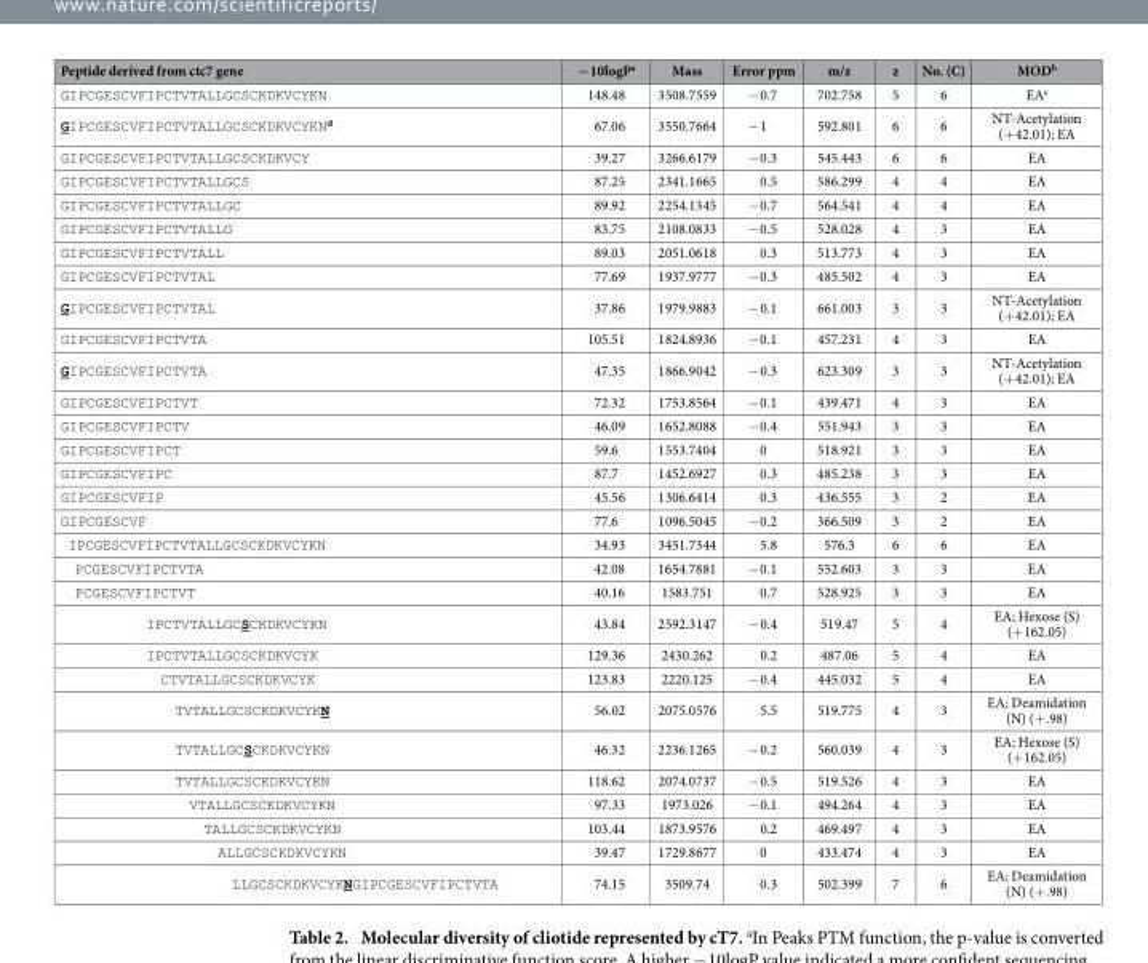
<table><thead><tr><td>Peptide derived from ctc7 gene</td><td>−10logP<sup>a</sup></td><td>Mass</td><td>Error ppm</td><td>m/z</td><td>z</td><td>No. (C)</td><td>MOD<sup>b</sup></td></tr></thead><tbody><tr><td>GIPCGESCVFIPCTVTALLGCSCKDKVCYKN</td><td>148.48</td><td>3508.7559</td><td>− 0.7</td><td>702.758</td><td>5</td><td>6</td><td>EA<sup>c</sup></td></tr><tr><td>GIPCGESCVFIPCTVTALLGCSCKDKVCYKN<sup>d</sup></td><td>67.06</td><td>3550.7664</td><td>− 1</td><td>592.801</td><td>6</td><td>6</td><td>NT-Acetylation (+ 42.01); EA</td></tr><tr><td>GIPCGESCVFIPCTVTALLGCSCKDKVCY</td><td>39.27</td><td>3266.6179</td><td>− 0.3</td><td>545.443</td><td>6</td><td>6</td><td>EA</td></tr><tr><td>GIPCGESCVFIPCTVTALLGCS</td><td>87.25</td><td>2341.1665</td><td>0.5</td><td>586.299</td><td>4</td><td>4</td><td>EA</td></tr><tr><td>GIPCGESCVFIPCTVTALLGC</td><td>89.92</td><td>2254.1345</td><td>− 0.7</td><td>564.541</td><td>4</td><td>4</td><td>EA</td></tr><tr><td>GIPCGESCVFIPCTVTALLG</td><td>83.75</td><td>2108.0833</td><td>− 0.5</td><td>528.028</td><td>4</td><td>3</td><td>EA</td></tr><tr><td>GIPCGESCVFIPCTVTALL</td><td>89.03</td><td>2051.0618</td><td>0.3</td><td>513.773</td><td>4</td><td>3</td><td>EA</td></tr><tr><td>GIPCGESCVFIPCTVTAL</td><td>77.69</td><td>1937.9777</td><td>− 0.3</td><td>485.502</td><td>4</td><td>3</td><td>EA</td></tr><tr><td>GIPCGESCVFIPCTVTAL</td><td>37.86</td><td>1979.9883</td><td>− 0.1</td><td>661.003</td><td>3</td><td>3</td><td>NT-Acetylation (+ 42.01); EA</td></tr><tr><td>GIPCGESCVFIPCTVTA</td><td>105.51</td><td>1824.8936</td><td>− 0.1</td><td>457.231</td><td>4</td><td>3</td><td>EA</td></tr><tr><td>GIPCGESCVFIPCTVTA</td><td>47.35</td><td>1866.9042</td><td>− 0.3</td><td>623.309</td><td>3</td><td>3</td><td>NT-Acetylation (+ 42.01); EA</td></tr><tr><td>GIPCGESCVFIPCTVT</td><td>72.32</td><td>1753.8564</td><td>− 0.1</td><td>439.471</td><td>4</td><td>3</td><td>EA</td></tr><tr><td>GIPCGESCVFIPCTV</td><td>46.09</td><td>1652.8088</td><td>− 0.4</td><td>551.943</td><td>3</td><td>3</td><td>EA</td></tr><tr><td>GIPCGESCVFIPCT</td><td>59.6</td><td>1553.7404</td><td>0</td><td>518.921</td><td>3</td><td>3</td><td>EA</td></tr><tr><td>GIPCGESCVFIPC</td><td>87.7</td><td>1452.6927</td><td>0.3</td><td>485.238</td><td>3</td><td>3</td><td>EA</td></tr><tr><td>GIPCGESCVFIP</td><td>45.56</td><td>1306.6414</td><td>0.3</td><td>436.555</td><td>3</td><td>2</td><td>EA</td></tr><tr><td>GIPCGESCVF</td><td>77.6</td><td>1096.5045</td><td>− 0.2</td><td>366.509</td><td>3</td><td>2</td><td>EA</td></tr><tr><td>IPCGESCVFIPCTVTALLGCSCKDKVCYKN</td><td>34.93</td><td>3451.7344</td><td>5.8</td><td>576.3</td><td>6</td><td>6</td><td>EA</td></tr><tr><td>PCGESCVFIPCTVTA</td><td>42.08</td><td>1654.7881</td><td>− 0.1</td><td>552.603</td><td>3</td><td>3</td><td>EA</td></tr><tr><td>PCGESCVFIPCTVT</td><td>40.16</td><td>1583.751</td><td>0.7</td><td>528.925</td><td>3</td><td>3</td><td>EA</td></tr><tr><td>IPCTVTALLGCSCKDKVCYKN</td><td>43.84</td><td>2592.3147</td><td>− 0.4</td><td>519.47</td><td>5</td><td>4</td><td>EA; Hexose (S) (+ 162.05)</td></tr><tr><td>IPCTVTALLGCSCKDKVCYK</td><td>129.36</td><td>2430.262</td><td>0.2</td><td>487.06</td><td>5</td><td>4</td><td>EA</td></tr><tr><td>CTVTALLGCSCKDKVCYK</td><td>123.83</td><td>2220.125</td><td>− 0.4</td><td>445.032</td><td>5</td><td>4</td><td>EA</td></tr><tr><td>TVTALLGCSCKDKVCYKN</td><td>56.02</td><td>2075.0576</td><td>5.5</td><td>519.775</td><td>4</td><td>3</td><td>EA; Deamidation (N) (+ .98)</td></tr><tr><td>TVTALLGCSCKDKVCYKN</td><td>46.32</td><td>2236.1265</td><td>− 0.2</td><td>560.039</td><td>4</td><td>3</td><td>EA; Hexose (S) (+ 162.05)</td></tr><tr><td>TVTALLGCSCKDKVCYKN</td><td>118.62</td><td>2074.0737</td><td>− 0.5</td><td>519.526</td><td>4</td><td>3</td><td>EA</td></tr><tr><td>VTALLGCSCKDKVCYKN</td><td>97.33</td><td>1973.026</td><td>− 0.1</td><td>494.264</td><td>4</td><td>3</td><td>EA</td></tr><tr><td>TALLGCSCKDKVCYKN</td><td>103.44</td><td>1873.9576</td><td>0.2</td><td>469.497</td><td>4</td><td>3</td><td>EA</td></tr><tr><td>ALLGCSCKDKVCYKN</td><td>39.47</td><td>1729.8677</td><td>0</td><td>433.474</td><td>4</td><td>3</td><td>EA</td></tr><tr><td>LLGCSCKDKVCYKNGIPCGESCVFIPCTVTA</td><td>74.15</td><td>3509.74</td><td>0.3</td><td>502.399</td><td>7</td><td>6</td><td>EA; Deamidation (N) (+ .98)</td></tr></tbody></table>